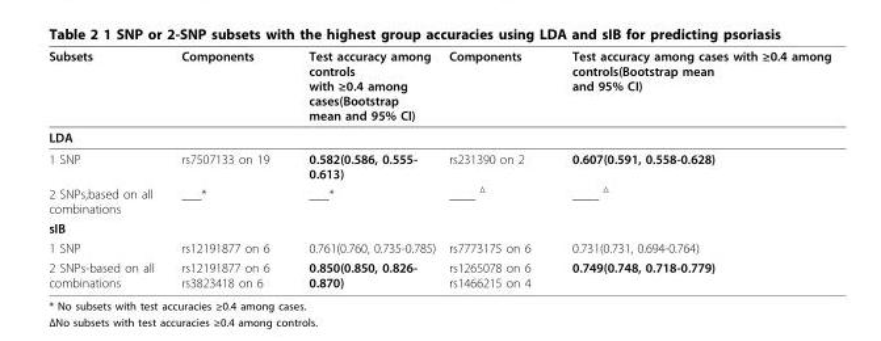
<table><thead><tr><td>Subsets</td><td>Components</td><td>Test accuracy among controls with ≥0.4 among cases(Bootstrap mean and 95% CI)</td><td>Components</td><td>Test accuracy among cases with ≥0.4 among controls(Bootstrap mean and 95% CI)</td></tr></thead><tbody><tr><td colspan="5">LDA</td></tr><tr><td>1 SNP</td><td>rs7507133 on 19</td><td>0.582(0.586, 0.555- 0.613)</td><td>rs231390 on 2</td><td>0.607(0.591, 0.558-0.628)</td></tr><tr><td>2 SNPs,based on all combinations</td><td>___*</td><td>___*</td><td>____ <sup>Δ</sup></td><td>____ <sup>Δ</sup></td></tr><tr><td colspan="5">sIB</td></tr><tr><td>1 SNP</td><td>rs12191877 on 6</td><td>0.761(0.760, 0.735-0.785)</td><td>rs7773175 on 6</td><td>0.731(0.731, 0.694-0.764)</td></tr><tr><td>2 SNPs-based on all combinations</td><td>rs12191877 on 6 rs3823418 on 6</td><td>0.850(0.850, 0.826- 0.870)</td><td>rs1265078 on 6 rs1466215 on 4</td><td>0.749(0.748, 0.718-0.779)</td></tr></tbody></table>